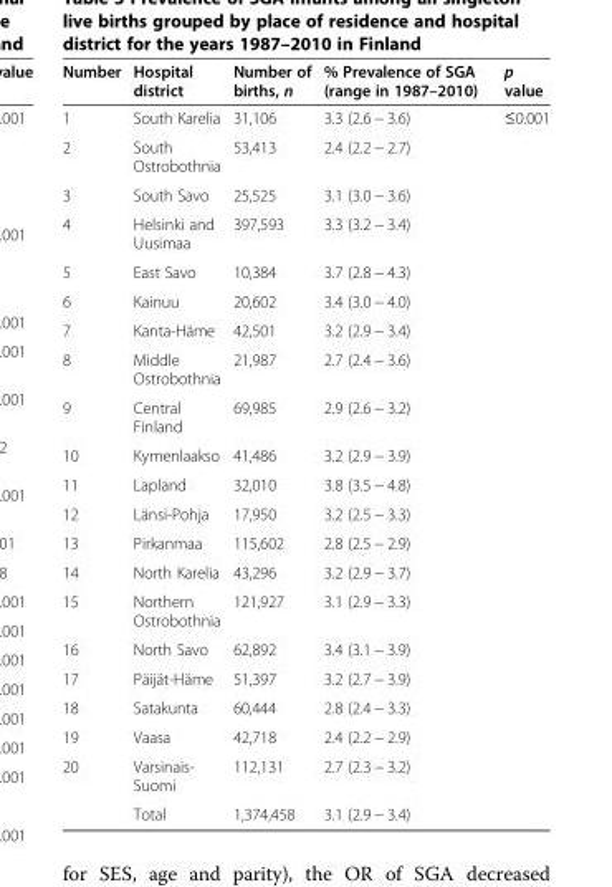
<table><thead><tr><td>Number</td><td>Hospital district</td><td>Number of births, n</td><td>% Prevalence of SGA (range in 1987–2010)</td><td>p value</td></tr></thead><tbody><tr><td>1</td><td>South Karelia</td><td>31,106</td><td>3.3 (2.6 − 3.6)</td><td>≤0.001</td></tr><tr><td>2</td><td>South Ostrobothnia</td><td>53,413</td><td>2.4 (2.2 − 2.7)</td><td></td></tr><tr><td>3</td><td>South Savo</td><td>25,525</td><td>3.1 (3.0 − 3.6)</td><td></td></tr><tr><td>4</td><td>Helsinki and Uusimaa</td><td>397,593</td><td>3.3 (3.2 − 3.4)</td><td></td></tr><tr><td>5</td><td>East Savo</td><td>10,384</td><td>3.7 (2.8 − 4.3)</td><td></td></tr><tr><td>6</td><td>Kainuu</td><td>20,602</td><td>3.4 (3.0 − 4.0)</td><td></td></tr><tr><td>7</td><td>Kanta-Häme</td><td>42,501</td><td>3.2 (2.9 − 3.4)</td><td></td></tr><tr><td>8</td><td>Middle Ostrobothnia</td><td>21,987</td><td>2.7 (2.4 − 3.6)</td><td></td></tr><tr><td>9</td><td>Central Finland</td><td>69,985</td><td>2.9 (2.6 − 3.2)</td><td></td></tr><tr><td>10</td><td>Kymenlaakso</td><td>41,486</td><td>3.2 (2.9 − 3.9)</td><td></td></tr><tr><td>11</td><td>Lapland</td><td>32,010</td><td>3.8 (3.5 − 4.8)</td><td></td></tr><tr><td>12</td><td>Länsi-Pohja</td><td>17,950</td><td>3.2 (2.5 − 3.3)</td><td></td></tr><tr><td>13</td><td>Pirkanmaa</td><td>115,602</td><td>2.8 (2.5 − 2.9)</td><td></td></tr><tr><td>14</td><td>North Karelia</td><td>43,296</td><td>3.2 (2.9 − 3.7)</td><td></td></tr><tr><td>15</td><td>Northern Ostrobothnia</td><td>121,927</td><td>3.1 (2.9 − 3.3)</td><td></td></tr><tr><td>16</td><td>North Savo</td><td>62,892</td><td>3.4 (3.1 − 3.9)</td><td></td></tr><tr><td>17</td><td>Päijät-Häme</td><td>51,397</td><td>3.2 (2.7 − 3.9)</td><td></td></tr><tr><td>18</td><td>Satakunta</td><td>60,444</td><td>2.8 (2.4 − 3.3)</td><td></td></tr><tr><td>19</td><td>Vaasa</td><td>42,718</td><td>2.4 (2.2 − 2.9)</td><td></td></tr><tr><td rowspan="2">20</td><td>Varsinais- Suomi</td><td>112,131</td><td>2.7 (2.3 − 3.2)</td><td></td></tr><tr><td>Total</td><td>1,374,458</td><td>3.1 (2.9 − 3.4)</td><td></td></tr></tbody></table>